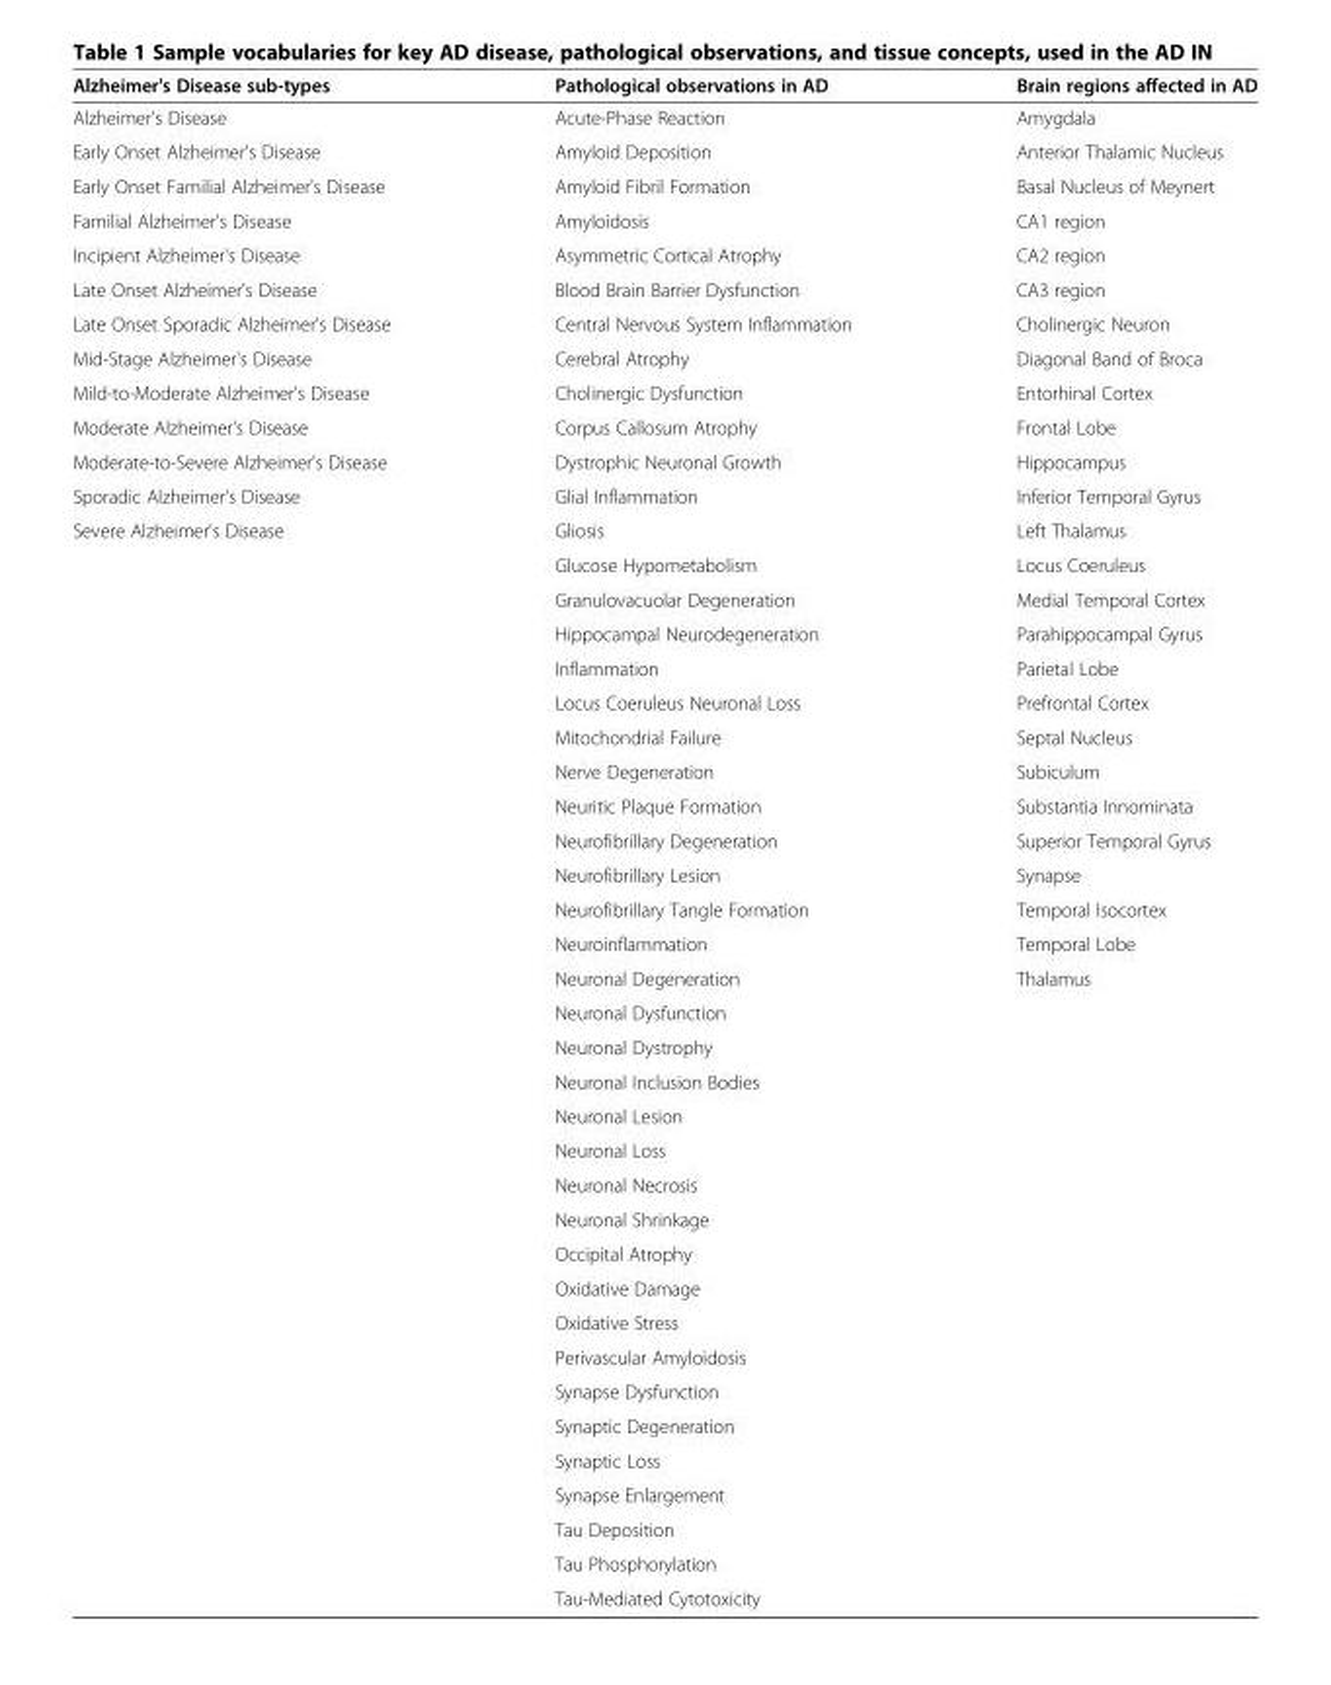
<table><thead><tr><td>Alzheimer&#x27;s Disease sub-types</td><td>Pathological observations in AD</td><td>Brain regions affected in AD</td></tr></thead><tbody><tr><td>Alzheimer&#x27;s Disease</td><td>Acute-Phase Reaction</td><td>Amygdala</td></tr><tr><td>Early Onset Alzheimer&#x27;s Disease</td><td>Amyloid Deposition</td><td>Anterior Thalamic Nucleus</td></tr><tr><td>Early Onset Familial Alzheimer&#x27;s Disease</td><td>Amyloid Fibril Formation</td><td>Basal Nucleus of Meynert</td></tr><tr><td>Familial Alzheimer&#x27;s Disease</td><td>Amyloidosis</td><td>CA1 region</td></tr><tr><td>Incipient Alzheimer&#x27;s Disease</td><td>Asymmetric Cortical Atrophy</td><td>CA2 region</td></tr><tr><td>Late Onset Alzheimer&#x27;s Disease</td><td>Blood Brain Barrier Dysfunction</td><td>CA3 region</td></tr><tr><td>Late Onset Sporadic Alzheimer&#x27;s Disease</td><td>Central Nervous System Inflammation</td><td>Cholinergic Neuron</td></tr><tr><td>Mid-Stage Alzheimer&#x27;s Disease</td><td>Cerebral Atrophy</td><td>Diagonal Band of Broca</td></tr><tr><td>Mild-to-Moderate Alzheimer&#x27;s Disease</td><td>Cholinergic Dysfunction</td><td>Entorhinal Cortex</td></tr><tr><td>Moderate Alzheimer&#x27;s Disease</td><td>Corpus Callosum Atrophy</td><td>Frontal Lobe</td></tr><tr><td>Moderate-to-Severe Alzheimer&#x27;s Disease</td><td>Dystrophic Neuronal Growth</td><td>Hippocampus</td></tr><tr><td>Sporadic Alzheimer&#x27;s Disease</td><td>Glial Inflammation</td><td>Inferior Temporal Gyrus</td></tr><tr><td rowspan="32">Severe Alzheimer&#x27;s Disease</td><td>Gliosis</td><td>Left Thalamus</td></tr><tr><td>Glucose Hypometabolism</td><td>Locus Coeruleus</td></tr><tr><td>Granulovacuolar Degeneration</td><td>Medial Temporal Cortex</td></tr><tr><td>Hippocampal Neurodegeneration</td><td>Parahippocampal Gyrus</td></tr><tr><td>Inflammation</td><td>Parietal Lobe</td></tr><tr><td>Locus Coeruleus Neuronal Loss</td><td>Prefrontal Cortex</td></tr><tr><td>Mitochondrial Failure</td><td>Septal Nucleus</td></tr><tr><td>Nerve Degeneration</td><td>Subiculum</td></tr><tr><td>Neuritic Plaque Formation</td><td>Substantia Innominata</td></tr><tr><td>Neurofibrillary Degeneration</td><td>Superior Temporal Gyrus</td></tr><tr><td>Neurofibrillary Lesion</td><td>Synapse</td></tr><tr><td>Neurofibrillary Tangle Formation</td><td>Temporal Isocortex</td></tr><tr><td>Neuroinflammation</td><td>Temporal Lobe</td></tr><tr><td>Neuronal Degeneration</td><td>Thalamus</td></tr><tr><td>Neuronal Dysfunction</td><td></td></tr><tr><td>Neuronal Dystrophy</td><td></td></tr><tr><td>Neuronal Inclusion Bodies</td><td></td></tr><tr><td>Neuronal Lesion</td><td></td></tr><tr><td>Neuronal Loss</td><td></td></tr><tr><td>Neuronal Necrosis</td><td></td></tr><tr><td>Neuronal Shrinkage</td><td></td></tr><tr><td>Occipital Atrophy</td><td></td></tr><tr><td>Oxidative Damage</td><td></td></tr><tr><td>Oxidative Stress</td><td></td></tr><tr><td>Perivascular Amyloidosis</td><td></td></tr><tr><td>Synapse Dysfunction</td><td></td></tr><tr><td>Synaptic Degeneration</td><td></td></tr><tr><td>Synaptic Loss</td><td></td></tr><tr><td>Synapse Enlargement</td><td></td></tr><tr><td>Tau Deposition</td><td></td></tr><tr><td>Tau Phosphorylation</td><td></td></tr><tr><td>Tau-Mediated Cytotoxicity</td><td></td></tr></tbody></table>